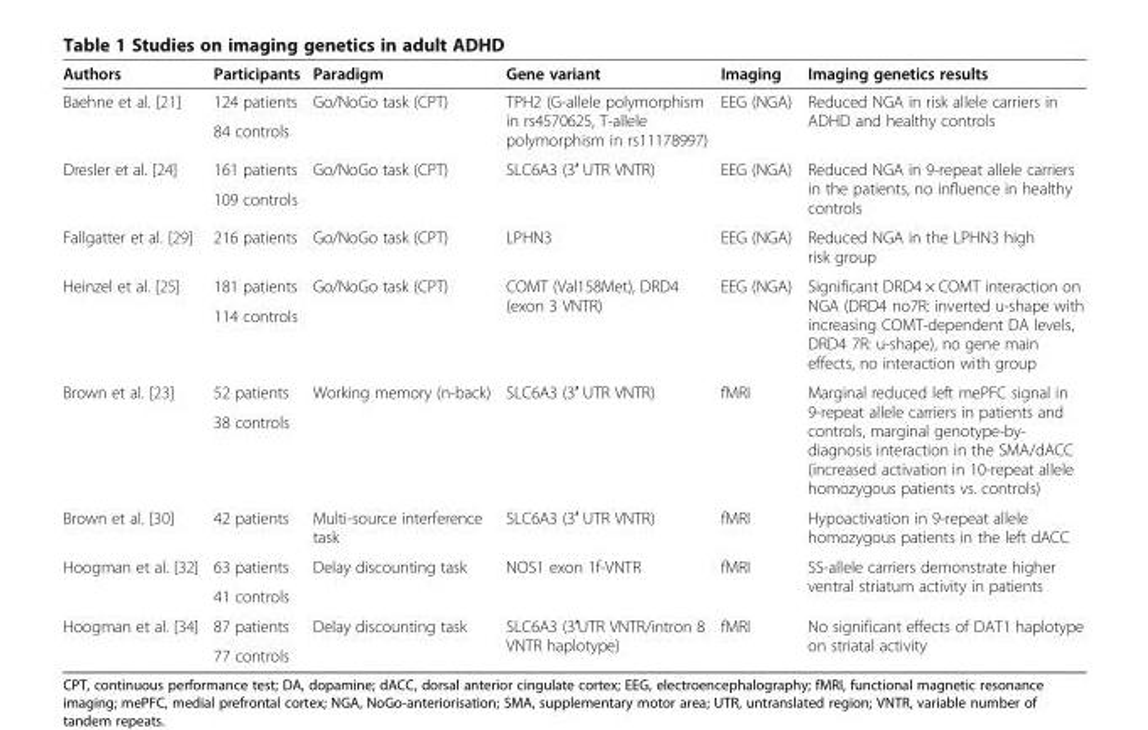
<table><thead><tr><td>Authors</td><td>Participants</td><td>Paradigm</td><td>Gene variant</td><td>Imaging</td><td>Imaging genetics results</td></tr></thead><tbody><tr><td rowspan="2">Baehne et al. [21]</td><td>124 patients</td><td rowspan="2">Go/NoGo task (CPT)</td><td rowspan="2">TPH2 (G-allele polymorphism in rs4570625, T-allele polymorphism in rs11178997)</td><td rowspan="2">EEG (NGA)</td><td rowspan="2">Reduced NGA in risk allele carriers in ADHD and healthy controls</td></tr><tr><td>84 controls</td></tr><tr><td rowspan="2">Dresler et al. [24]</td><td>161 patients</td><td rowspan="2">Go/NoGo task (CPT)</td><td rowspan="2">SLC6A3 (3′ UTR VNTR)</td><td rowspan="2">EEG (NGA)</td><td rowspan="2">Reduced NGA in 9-repeat allele carriers in the patients, no influence in healthy controls</td></tr><tr><td>109 controls</td></tr><tr><td>Fallgatter et al. [29]</td><td>216 patients</td><td>Go/NoGo task (CPT)</td><td>LPHN3</td><td>EEG (NGA)</td><td>Reduced NGA in the LPHN3 high risk group</td></tr><tr><td rowspan="2">Heinzel et al. [25]</td><td>181 patients</td><td rowspan="2">Go/NoGo task (CPT)</td><td rowspan="2">COMT (Val158Met), DRD4 (exon 3 VNTR)</td><td rowspan="2">EEG (NGA)</td><td rowspan="2">Significant DRD4 × COMT interaction on NGA (DRD4 no7R: inverted u-shape with increasing COMT-dependent DA levels, DRD4 7R: u-shape), no gene main effects, no interaction with group</td></tr><tr><td>114 controls</td></tr><tr><td rowspan="2">Brown et al. [23]</td><td>52 patients</td><td rowspan="2">Working memory (n-back)</td><td rowspan="2">SLC6A3 (3′ UTR VNTR)</td><td rowspan="2">fMRI</td><td rowspan="2">Marginal reduced left mePFC signal in 9-repeat allele carriers in patients and controls, marginal genotype-by- diagnosis interaction in the SMA/dACC (increased activation in 10-repeat allele homozygous patients vs. controls)</td></tr><tr><td>38 controls</td></tr><tr><td>Brown et al. [30]</td><td>42 patients</td><td>Multi-source interference task</td><td>SLC6A3 (3′ UTR VNTR)</td><td>fMRI</td><td>Hypoactivation in 9-repeat allele homozygous patients in the left dACC</td></tr><tr><td rowspan="2">Hoogman et al. [32]</td><td>63 patients</td><td rowspan="2">Delay discounting task</td><td rowspan="2">NOS1 exon 1f-VNTR</td><td rowspan="2">fMRI</td><td rowspan="2">SS-allele carriers demonstrate higher ventral striatum activity in patients</td></tr><tr><td>41 controls</td></tr><tr><td rowspan="2">Hoogman et al. [34]</td><td>87 patients</td><td rowspan="2">Delay discounting task</td><td rowspan="2">SLC6A3 (3′UTR VNTR/intron 8 VNTR haplotype)</td><td rowspan="2">fMRI</td><td rowspan="2">No significant effects of DAT1 haplotype on striatal activity</td></tr><tr><td>77 controls</td></tr></tbody></table>